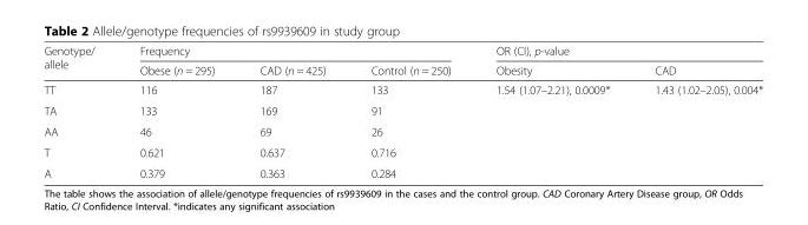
<table><thead><tr><td rowspan="2">Genotype/ allele</td><td colspan="3">Frequency</td><td colspan="2">OR (CI), p-value</td></tr><tr><td>Obese (n = 295)</td><td>CAD (n = 425)</td><td>Control (n = 250)</td><td>Obesity</td><td>CAD</td></tr></thead><tbody><tr><td>TT</td><td>116</td><td>187</td><td>133</td><td rowspan="5">1.54 (1.07–2.21), 0.0009*</td><td rowspan="5">1.43 (1.02–2.05), 0.004*</td></tr><tr><td>TA</td><td>133</td><td>169</td><td>91</td></tr><tr><td>AA</td><td>46</td><td>69</td><td>26</td></tr><tr><td>T</td><td>0.621</td><td>0.637</td><td>0.716</td></tr><tr><td>A</td><td>0.379</td><td>0.363</td><td>0.284</td></tr></tbody></table>